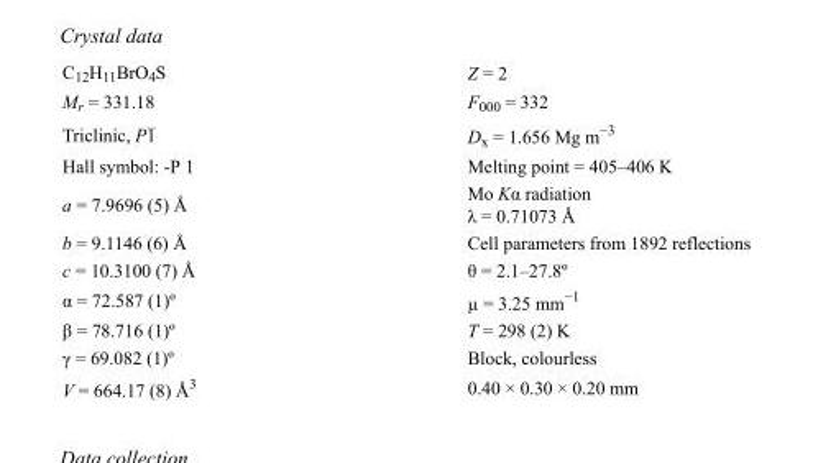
<table><tbody><tr><td>C<sub>12</sub>H<sub>11</sub>BrO<sub>4</sub>S</td><td>Z = 2</td></tr><tr><td>M<sub>r</sub> = 331.18</td><td>F<sub>000</sub> = 332</td></tr><tr><td>Triclinic, P1</td><td>D<sub>x</sub> = 1.656 Mg m<sup>−3</sup></td></tr><tr><td>Hall symbol: -P 1</td><td>Melting point = 405–406 K</td></tr><tr><td>a = 7.9696 (5) Å</td><td>Mo Kα radiation λ = 0.71073 Å</td></tr><tr><td>b = 9.1146 (6) Å</td><td>Cell parameters from 1892 reflections</td></tr><tr><td>c = 10.3100 (7) Å</td><td>θ = 2.1–27.8º</td></tr><tr><td>α = 72.587 (1)º</td><td>µ = 3.25 mm<sup>−1</sup></td></tr><tr><td>β = 78.716 (1)º</td><td>T = 298 (2) K</td></tr><tr><td>γ = 69.082 (1)º</td><td>Block, colourless</td></tr><tr><td>V = 664.17 (8) Å<sup>3</sup></td><td>0.40 × 0.30 × 0.20 mm</td></tr></tbody></table>